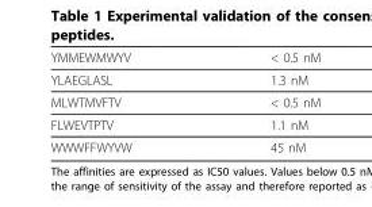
<table><thead><tr><td>YMMEWMWYV</td><td>&lt; 0.5 nM</td></tr></thead><tbody><tr><td>YLAEGLASL</td><td>1.3 nM</td></tr><tr><td>MLWTMVFTV</td><td>&lt; 0.5 nM</td></tr><tr><td>FLWEVTPTV</td><td>1.1 nM</td></tr><tr><td>WWWFFWYVW</td><td>45 nM</td></tr></tbody></table>